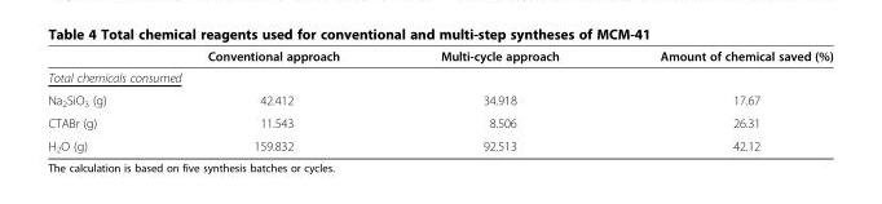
<table><thead><tr><td></td><td>Conventional approach</td><td>Multi-cycle approach</td><td>Amount of chemical saved (%)</td></tr></thead><tbody><tr><td colspan="4">Total chemicals consumed</td></tr><tr><td>Na<sub>2</sub>SiO<sub>3</sub> (g)</td><td>42.412</td><td>34.918</td><td>17.67</td></tr><tr><td>CTABr (g)</td><td>11.543</td><td>8.506</td><td>26.31</td></tr><tr><td>H<sub>2</sub>O (g)</td><td>159.832</td><td>92.513</td><td>42.12</td></tr></tbody></table>